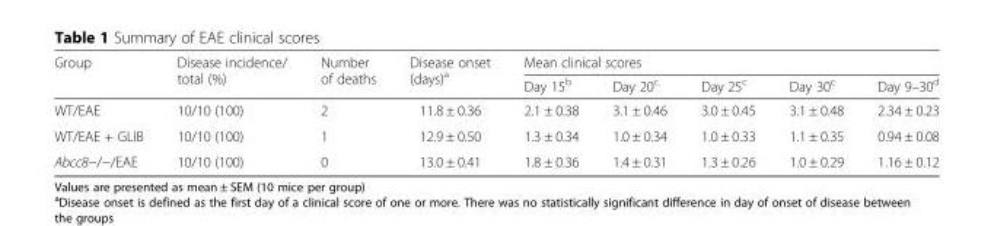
<table><thead><tr><td rowspan="2">Group</td><td rowspan="2">Disease incidence/ total (%)</td><td rowspan="2">Number of deaths</td><td rowspan="2">Disease onset (days)<sup>a</sup></td><td colspan="5">Mean clinical scores</td></tr><tr><td>Day 15<sup>b</sup></td><td>Day 20<sup>c</sup></td><td>Day 25<sup>c</sup></td><td>Day 30<sup>c</sup></td><td>Day 9–30<sup>d</sup></td></tr></thead><tbody><tr><td>WT/EAE</td><td>10/10 (100)</td><td>2</td><td>11.8 ± 0.36</td><td>2.1 ± 0.38</td><td>3.1 ± 0.46</td><td>3.0 ± 0.45</td><td>3.1 ± 0.48</td><td>2.34 ± 0.23</td></tr><tr><td>WT/EAE + GLIB</td><td>10/10 (100)</td><td>1</td><td>12.9 ± 0.50</td><td>1.3 ± 0.34</td><td>1.0 ± 0.34</td><td>1.0 ± 0.33</td><td>1.1 ± 0.35</td><td>0.94 ± 0.08</td></tr><tr><td>Abcc8−/−/EAE</td><td>10/10 (100)</td><td>0</td><td>13.0 ± 0.41</td><td>1.8 ± 0.36</td><td>1.4 ± 0.31</td><td>1.3 ± 0.26</td><td>1.0 ± 0.29</td><td>1.16 ± 0.12</td></tr></tbody></table>